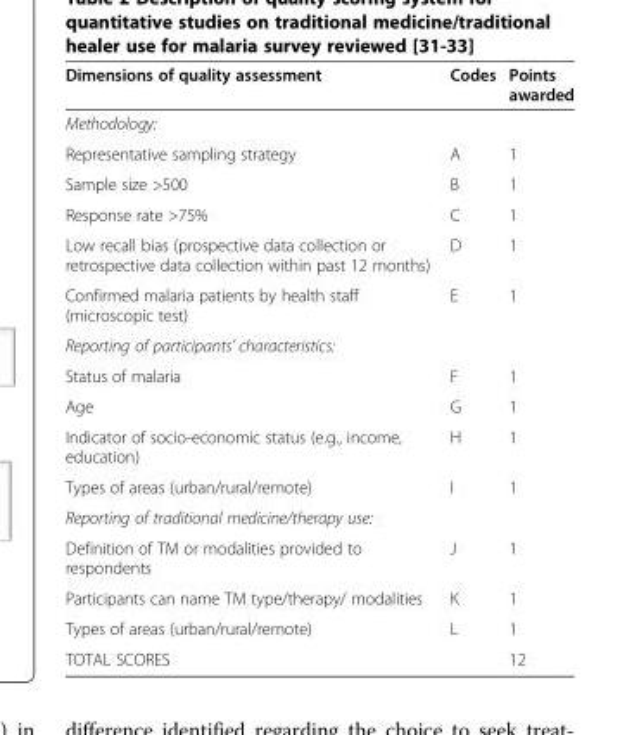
<table><thead><tr><td>Dimensions of quality assessment</td><td>Codes</td><td>Points awarded</td></tr></thead><tbody><tr><td colspan="3">Methodology:</td></tr><tr><td>Representative sampling strategy</td><td>A</td><td>1</td></tr><tr><td>Sample size &gt;500</td><td>B</td><td>1</td></tr><tr><td>Response rate &gt;75%</td><td>C</td><td>1</td></tr><tr><td>Low recall bias (prospective data collection or retrospective data collection within past 12 months)</td><td>D</td><td>1</td></tr><tr><td>Confirmed malaria patients by health staff (microscopic test)</td><td>E</td><td>1</td></tr><tr><td colspan="3">Reporting of participants’ characteristics:</td></tr><tr><td>Status of malaria</td><td>F</td><td>1</td></tr><tr><td>Age</td><td>G</td><td>1</td></tr><tr><td>Indicator of socio-economic status (e.g., income, education)</td><td>H</td><td>1</td></tr><tr><td>Types of areas (urban/rural/remote)</td><td>I</td><td>1</td></tr><tr><td colspan="3">Reporting of traditional medicine/therapy use:</td></tr><tr><td>Definition of TM or modalities provided to respondents</td><td>J</td><td>1</td></tr><tr><td>Participants can name TM type/therapy/ modalities</td><td>K</td><td>1</td></tr><tr><td>Types of areas (urban/rural/remote)</td><td>L</td><td>1</td></tr><tr><td>TOTAL SCORES</td><td></td><td>12</td></tr></tbody></table>